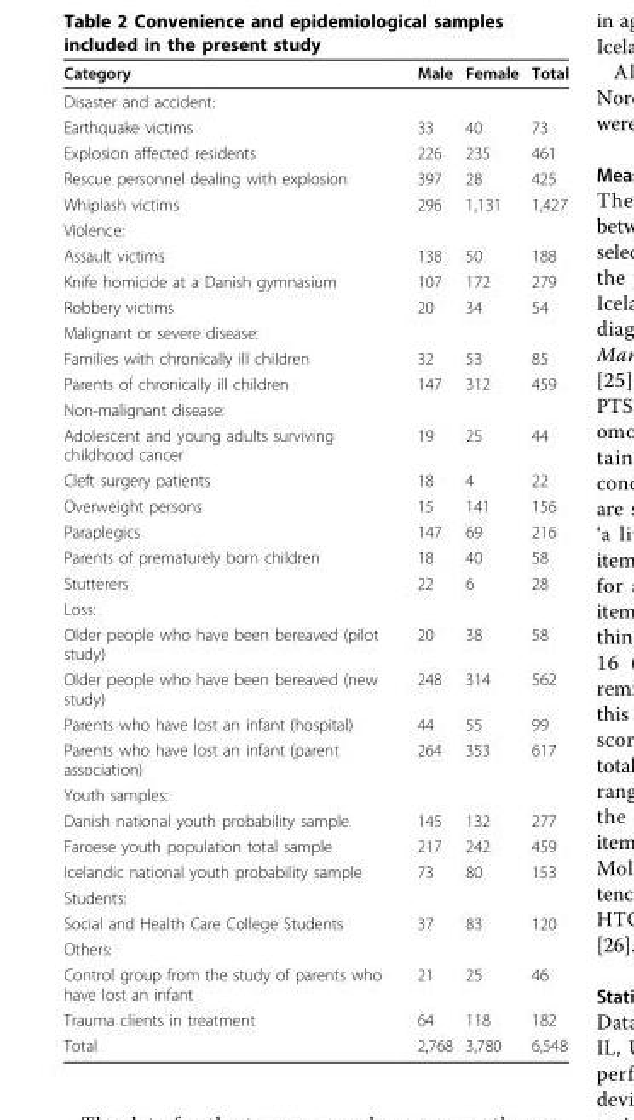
<table><thead><tr><td>Category</td><td>Male</td><td>Female</td><td>Total</td></tr></thead><tbody><tr><td colspan="4">Disaster and accident:</td></tr><tr><td>Earthquake victims</td><td>33</td><td>40</td><td>73</td></tr><tr><td>Explosion affected residents</td><td>226</td><td>235</td><td>461</td></tr><tr><td>Rescue personnel dealing with explosion</td><td>397</td><td>28</td><td>425</td></tr><tr><td>Whiplash victims</td><td>296</td><td>1,131</td><td>1,427</td></tr><tr><td colspan="4">Violence:</td></tr><tr><td>Assault victims</td><td>138</td><td>50</td><td>188</td></tr><tr><td>Knife homicide at a Danish gymnasium</td><td>107</td><td>172</td><td>279</td></tr><tr><td>Robbery victims</td><td>20</td><td>34</td><td>54</td></tr><tr><td colspan="4">Malignant or severe disease:</td></tr><tr><td>Families with chronically ill children</td><td>32</td><td>53</td><td>85</td></tr><tr><td>Parents of chronically ill children</td><td>147</td><td>312</td><td>459</td></tr><tr><td colspan="4">Non-malignant disease:</td></tr><tr><td>Adolescent and young adults surviving childhood cancer</td><td>19</td><td>25</td><td>44</td></tr><tr><td>Cleft surgery patients</td><td>18</td><td>4</td><td>22</td></tr><tr><td>Overweight persons</td><td>15</td><td>141</td><td>156</td></tr><tr><td>Paraplegics</td><td>147</td><td>69</td><td>216</td></tr><tr><td>Parents of prematurely born children</td><td>18</td><td>40</td><td>58</td></tr><tr><td>Stutterers</td><td>22</td><td>6</td><td>28</td></tr><tr><td colspan="4">Loss:</td></tr><tr><td>Older people who have been bereaved (pilot study)</td><td>20</td><td>38</td><td>58</td></tr><tr><td>Older people who have been bereaved (new study)</td><td>248</td><td>314</td><td>562</td></tr><tr><td>Parents who have lost an infant (hospital)</td><td>44</td><td>55</td><td>99</td></tr><tr><td>Parents who have lost an infant (parent association)</td><td>264</td><td>353</td><td>617</td></tr><tr><td colspan="4">Youth samples:</td></tr><tr><td>Danish national youth probability sample</td><td>145</td><td>132</td><td>277</td></tr><tr><td>Faroese youth population total sample</td><td>217</td><td>242</td><td>459</td></tr><tr><td>Icelandic national youth probability sample</td><td>73</td><td>80</td><td>153</td></tr><tr><td colspan="4">Students:</td></tr><tr><td>Social and Health Care College Students</td><td>37</td><td>83</td><td>120</td></tr><tr><td colspan="4">Others:</td></tr><tr><td>Control group from the study of parents who have lost an infant</td><td>21</td><td>25</td><td>46</td></tr><tr><td>Trauma clients in treatment</td><td>64</td><td>118</td><td>182</td></tr><tr><td>Total</td><td>2,768</td><td>3,780</td><td>6,548</td></tr></tbody></table>